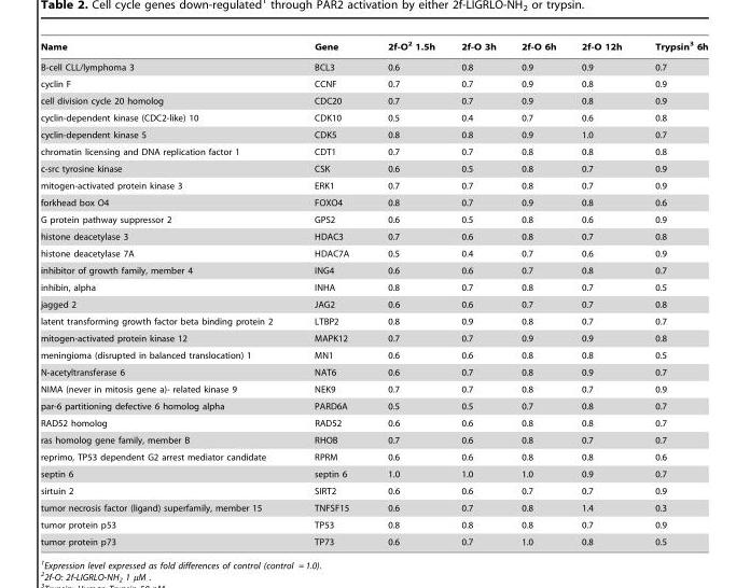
<table><thead><tr><td>Name</td><td>Gene</td><td>2f-O<sup>2</sup> 1.5h</td><td>2f-O 3h</td><td>2f-O 6h</td><td>2f-O 12h</td><td>Trypsin<sup>3</sup> 6h</td></tr></thead><tbody><tr><td>B-cell CLL/lymphoma 3</td><td>BCL3</td><td>0.6</td><td>0.8</td><td>0.9</td><td>0.9</td><td>0.7</td></tr><tr><td>cyclin F</td><td>CCNF</td><td>0.7</td><td>0.7</td><td>0.9</td><td>0.8</td><td>0.9</td></tr><tr><td>cell division cycle 20 homolog</td><td>CDC20</td><td>0.7</td><td>0.7</td><td>0.9</td><td>0.8</td><td>0.9</td></tr><tr><td>cyclin-dependent kinase (CDC2-like) 10</td><td>CDK10</td><td>0.5</td><td>0.4</td><td>0.7</td><td>0.6</td><td>0.8</td></tr><tr><td>cyclin-dependent kinase 5</td><td>CDK5</td><td>0.8</td><td>0.8</td><td>0.9</td><td>1.0</td><td>0.7</td></tr><tr><td>chromatin licensing and DNA replication factor 1</td><td>CDT1</td><td>0.7</td><td>0.7</td><td>0.8</td><td>0.8</td><td>0.8</td></tr><tr><td>c-src tyrosine kinase</td><td>CSK</td><td>0.6</td><td>0.5</td><td>0.8</td><td>0.7</td><td>0.9</td></tr><tr><td>mitogen-activated protein kinase 3</td><td>ERK1</td><td>0.7</td><td>0.7</td><td>0.8</td><td>0.7</td><td>0.9</td></tr><tr><td>forkhead box O4</td><td>FOXO4</td><td>0.8</td><td>0.7</td><td>0.9</td><td>0.8</td><td>0.6</td></tr><tr><td>G protein pathway suppressor 2</td><td>GPS2</td><td>0.6</td><td>0.5</td><td>0.8</td><td>0.6</td><td>0.9</td></tr><tr><td>histone deacetylase 3</td><td>HDAC3</td><td>0.7</td><td>0.6</td><td>0.8</td><td>0.7</td><td>0.8</td></tr><tr><td>histone deacetylase 7A</td><td>HDAC7A</td><td>0.5</td><td>0.4</td><td>0.7</td><td>0.6</td><td>0.9</td></tr><tr><td>inhibitor of growth family, member 4</td><td>ING4</td><td>0.6</td><td>0.6</td><td>0.7</td><td>0.8</td><td>0.7</td></tr><tr><td>inhibin, alpha</td><td>INHA</td><td>0.8</td><td>0.7</td><td>0.8</td><td>0.7</td><td>0.5</td></tr><tr><td>jagged 2</td><td>JAG2</td><td>0.6</td><td>0.6</td><td>0.7</td><td>0.7</td><td>0.8</td></tr><tr><td>latent transforming growth factor beta binding protein 2</td><td>LTBP2</td><td>0.8</td><td>0.9</td><td>0.8</td><td>0.7</td><td>0.7</td></tr><tr><td>mitogen-activated protein kinase 12</td><td>MAPK12</td><td>0.7</td><td>0.7</td><td>0.9</td><td>0.9</td><td>0.8</td></tr><tr><td>meningioma (disrupted in balanced translocation) 1</td><td>MN1</td><td>0.6</td><td>0.6</td><td>0.8</td><td>0.8</td><td>0.5</td></tr><tr><td>N-acetyltransferase 6</td><td>NAT6</td><td>0.6</td><td>0.7</td><td>0.8</td><td>0.9</td><td>0.7</td></tr><tr><td>NIMA (never in mitosis gene a)- related kinase 9</td><td>NEK9</td><td>0.7</td><td>0.7</td><td>0.8</td><td>0.7</td><td>0.9</td></tr><tr><td>par-6 partitioning defective 6 homolog alpha</td><td>PARD6A</td><td>0.5</td><td>0.5</td><td>0.7</td><td>0.8</td><td>0.7</td></tr><tr><td>RAD52 homolog</td><td>RAD52</td><td>0.6</td><td>0.6</td><td>0.8</td><td>0.8</td><td>0.7</td></tr><tr><td>ras homolog gene family, member B</td><td>RHOB</td><td>0.7</td><td>0.6</td><td>0.8</td><td>0.7</td><td>0.7</td></tr><tr><td>reprimo, TP53 dependent G2 arrest mediator candidate</td><td>RPRM</td><td>0.6</td><td>0.6</td><td>0.8</td><td>0.8</td><td>0.6</td></tr><tr><td>septin 6</td><td>septin 6</td><td>1.0</td><td>1.0</td><td>1.0</td><td>0.9</td><td>0.7</td></tr><tr><td>sirtuin 2</td><td>SIRT2</td><td>0.6</td><td>0.6</td><td>0.7</td><td>0.7</td><td>0.9</td></tr><tr><td>tumor necrosis factor (ligand) superfamily, member 15</td><td>TNFSF15</td><td>0.6</td><td>0.7</td><td>0.8</td><td>1.4</td><td>0.3</td></tr><tr><td>tumor protein p53</td><td>TP53</td><td>0.8</td><td>0.8</td><td>0.8</td><td>0.7</td><td>0.9</td></tr><tr><td>tumor protein p73</td><td>TP73</td><td>0.6</td><td>0.7</td><td>1.0</td><td>0.8</td><td>0.5</td></tr></tbody></table>